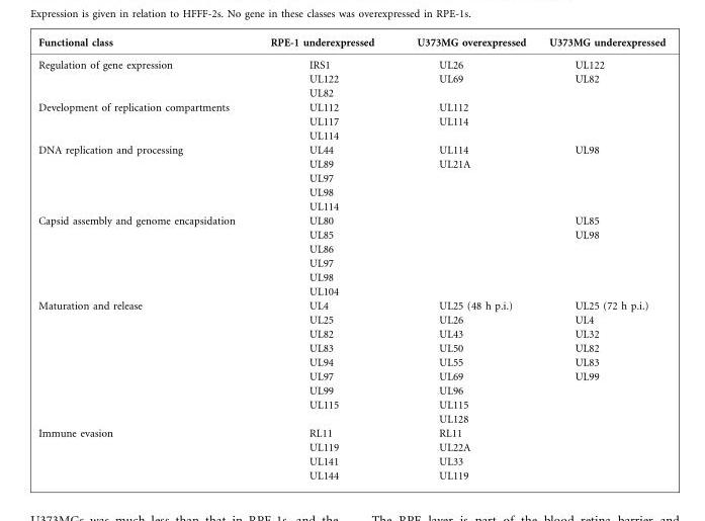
<table><thead><tr><td>Functional class</td><td>RPE-1 underexpressed</td><td>U373MG overexpressed</td><td>U373MG underexpressed</td></tr></thead><tbody><tr><td rowspan="3">Regulation of gene expression</td><td>IRS1</td><td>UL26</td><td>UL122</td></tr><tr><td>UL122</td><td>UL69</td><td>UL82</td></tr><tr><td>UL82</td><td></td><td></td></tr><tr><td rowspan="3">Development of replication compartments</td><td>UL112</td><td>UL112</td><td></td></tr><tr><td>UL117</td><td>UL114</td><td></td></tr><tr><td>UL114</td><td></td><td></td></tr><tr><td rowspan="5">DNA replication and processing</td><td>UL44</td><td>UL114</td><td>UL98</td></tr><tr><td>UL89</td><td>UL21A</td><td></td></tr><tr><td>UL97</td><td></td><td></td></tr><tr><td>UL98</td><td></td><td></td></tr><tr><td>UL114</td><td></td><td></td></tr><tr><td rowspan="6">Capsid assembly and genome encapsidation</td><td>UL80</td><td></td><td>UL85</td></tr><tr><td>UL85</td><td></td><td>UL98</td></tr><tr><td>UL86</td><td></td><td></td></tr><tr><td>UL97</td><td></td><td></td></tr><tr><td>UL98</td><td></td><td></td></tr><tr><td>UL104</td><td></td><td></td></tr><tr><td rowspan="9">Maturation and release</td><td>UL4</td><td>UL25 (48 h p.i.)</td><td>UL25 (72 h p.i.)</td></tr><tr><td>UL25</td><td>UL26</td><td>UL4</td></tr><tr><td>UL82</td><td>UL43</td><td>UL32</td></tr><tr><td>UL83</td><td>UL50</td><td>UL82</td></tr><tr><td>UL94</td><td>UL55</td><td>UL83</td></tr><tr><td>UL97</td><td>UL69</td><td>UL99</td></tr><tr><td>UL99</td><td>UL96</td><td></td></tr><tr><td>UL115</td><td>UL115</td><td></td></tr><tr><td></td><td>UL128</td><td></td></tr><tr><td rowspan="4">Immune evasion</td><td>RL11</td><td>RL11</td><td></td></tr><tr><td>UL119</td><td>UL22A</td><td></td></tr><tr><td>UL141</td><td>UL33</td><td></td></tr><tr><td>UL144</td><td>UL119</td><td></td></tr></tbody></table>